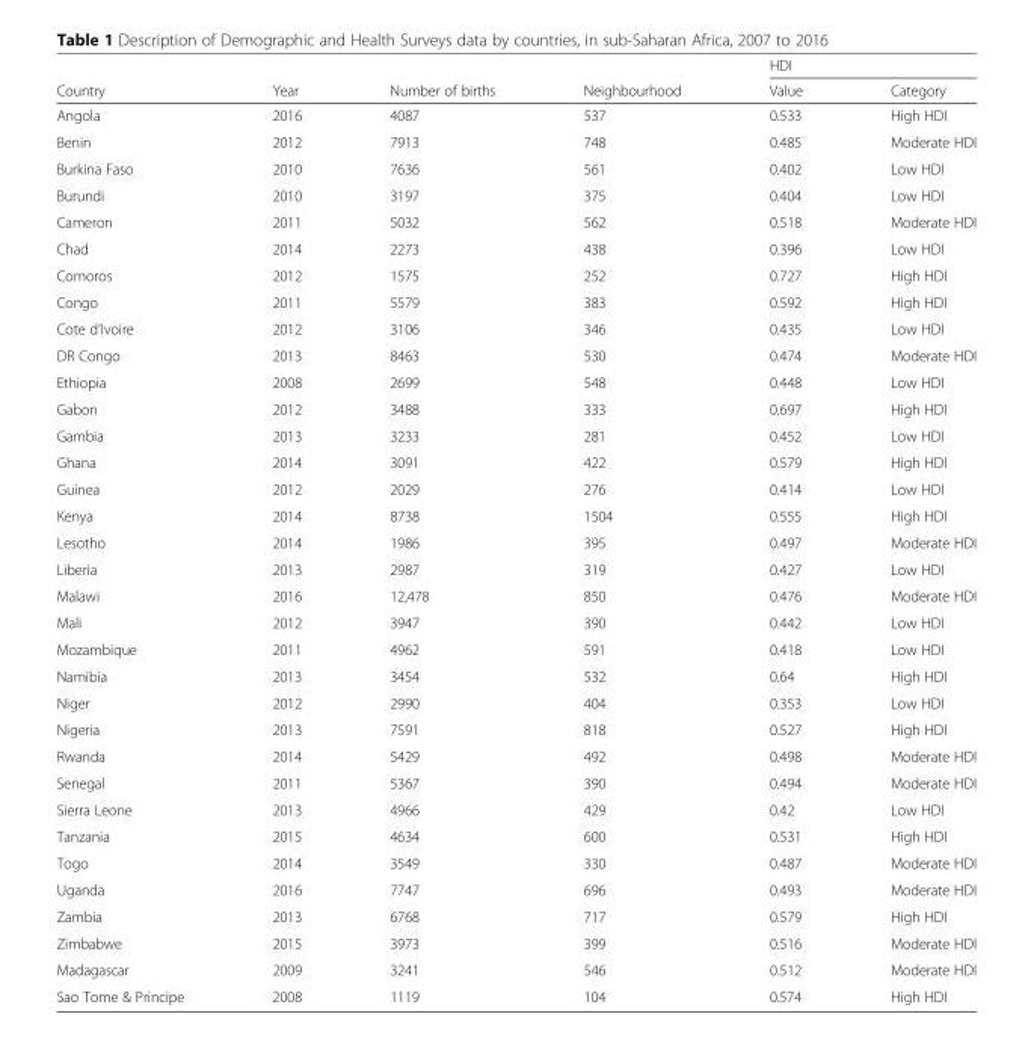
<table><thead><tr><td rowspan="2">Country</td><td rowspan="2">Year</td><td rowspan="2">Number of births</td><td rowspan="2">Neighbourhood</td><td colspan="2">HDI</td></tr><tr><td>Value</td><td>Category</td></tr></thead><tbody><tr><td>Angola</td><td>2016</td><td>4087</td><td>537</td><td>0.533</td><td>High HDI</td></tr><tr><td>Benin</td><td>2012</td><td>7913</td><td>748</td><td>0.485</td><td>Moderate HDI</td></tr><tr><td>Burkina Faso</td><td>2010</td><td>7636</td><td>561</td><td>0.402</td><td>Low HDI</td></tr><tr><td>Burundi</td><td>2010</td><td>3197</td><td>375</td><td>0.404</td><td>Low HDI</td></tr><tr><td>Cameron</td><td>2011</td><td>5032</td><td>562</td><td>0.518</td><td>Moderate HDI</td></tr><tr><td>Chad</td><td>2014</td><td>2273</td><td>438</td><td>0.396</td><td>Low HDI</td></tr><tr><td>Comoros</td><td>2012</td><td>1575</td><td>252</td><td>0.727</td><td>High HDI</td></tr><tr><td>Congo</td><td>2011</td><td>5579</td><td>383</td><td>0.592</td><td>High HDI</td></tr><tr><td>Cote d’Ivoire</td><td>2012</td><td>3106</td><td>346</td><td>0.435</td><td>Low HDI</td></tr><tr><td>DR Congo</td><td>2013</td><td>8463</td><td>530</td><td>0.474</td><td>Moderate HDI</td></tr><tr><td>Ethiopia</td><td>2008</td><td>2699</td><td>548</td><td>0.448</td><td>Low HDI</td></tr><tr><td>Gabon</td><td>2012</td><td>3488</td><td>333</td><td>0.697</td><td>High HDI</td></tr><tr><td>Gambia</td><td>2013</td><td>3233</td><td>281</td><td>0.452</td><td>Low HDI</td></tr><tr><td>Ghana</td><td>2014</td><td>3091</td><td>422</td><td>0.579</td><td>High HDI</td></tr><tr><td>Guinea</td><td>2012</td><td>2029</td><td>276</td><td>0.414</td><td>Low HDI</td></tr><tr><td>Kenya</td><td>2014</td><td>8738</td><td>1504</td><td>0.555</td><td>High HDI</td></tr><tr><td>Lesotho</td><td>2014</td><td>1986</td><td>395</td><td>0.497</td><td>Moderate HDI</td></tr><tr><td>Liberia</td><td>2013</td><td>2987</td><td>319</td><td>0.427</td><td>Low HDI</td></tr><tr><td>Malawi</td><td>2016</td><td>12,478</td><td>850</td><td>0.476</td><td>Moderate HDI</td></tr><tr><td>Mali</td><td>2012</td><td>3947</td><td>390</td><td>0.442</td><td>Low HDI</td></tr><tr><td>Mozambique</td><td>2011</td><td>4962</td><td>591</td><td>0.418</td><td>Low HDI</td></tr><tr><td>Namibia</td><td>2013</td><td>3454</td><td>532</td><td>0.64</td><td>High HDI</td></tr><tr><td>Niger</td><td>2012</td><td>2990</td><td>404</td><td>0.353</td><td>Low HDI</td></tr><tr><td>Nigeria</td><td>2013</td><td>7591</td><td>818</td><td>0.527</td><td>High HDI</td></tr><tr><td>Rwanda</td><td>2014</td><td>5429</td><td>492</td><td>0.498</td><td>Moderate HDI</td></tr><tr><td>Senegal</td><td>2011</td><td>5367</td><td>390</td><td>0.494</td><td>Moderate HDI</td></tr><tr><td>Sierra Leone</td><td>2013</td><td>4966</td><td>429</td><td>0.42</td><td>Low HDI</td></tr><tr><td>Tanzania</td><td>2015</td><td>4634</td><td>600</td><td>0.531</td><td>High HDI</td></tr><tr><td>Togo</td><td>2014</td><td>3549</td><td>330</td><td>0.487</td><td>Moderate HDI</td></tr><tr><td>Uganda</td><td>2016</td><td>7747</td><td>696</td><td>0.493</td><td>Moderate HDI</td></tr><tr><td>Zambia</td><td>2013</td><td>6768</td><td>717</td><td>0.579</td><td>High HDI</td></tr><tr><td>Zimbabwe</td><td>2015</td><td>3973</td><td>399</td><td>0.516</td><td>Moderate HDI</td></tr><tr><td>Madagascar</td><td>2009</td><td>3241</td><td>546</td><td>0.512</td><td>Moderate HDI</td></tr><tr><td>Sao Tome &amp; Principe</td><td>2008</td><td>1119</td><td>104</td><td>0.574</td><td>High HDI</td></tr></tbody></table>